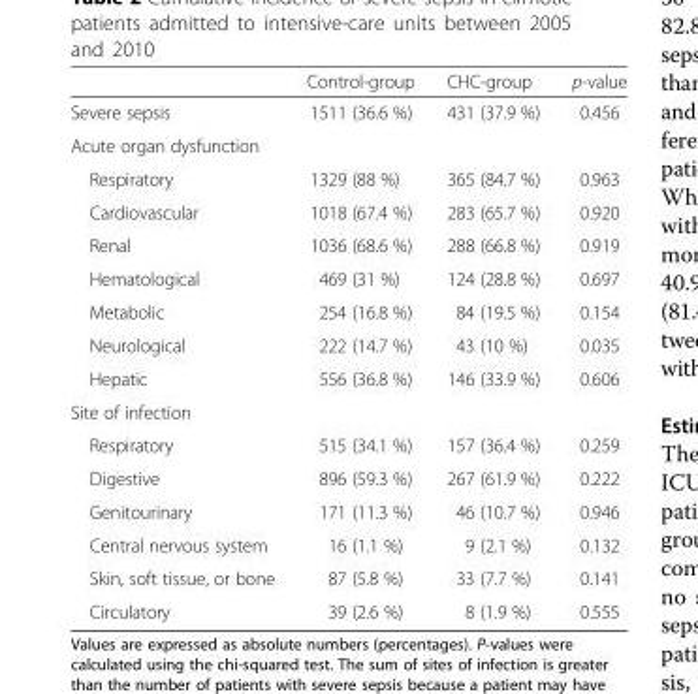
<table><thead><tr><td></td><td>Control-group</td><td>CHC-group</td><td>p-value</td></tr></thead><tbody><tr><td>Severe sepsis</td><td>1511 (36.6 %)</td><td>431 (37.9 %)</td><td>0.456</td></tr><tr><td colspan="4">Acute organ dysfunction</td></tr><tr><td>Respiratory</td><td>1329 (88 %)</td><td>365 (84.7 %)</td><td>0.963</td></tr><tr><td>Cardiovascular</td><td>1018 (67.4 %)</td><td>283 (65.7 %)</td><td>0.920</td></tr><tr><td>Renal</td><td>1036 (68.6 %)</td><td>288 (66.8 %)</td><td>0.919</td></tr><tr><td>Hematological</td><td>469 (31 %)</td><td>124 (28.8 %)</td><td>0.697</td></tr><tr><td>Metabolic</td><td>254 (16.8 %)</td><td>84 (19.5 %)</td><td>0.154</td></tr><tr><td>Neurological</td><td>222 (14.7 %)</td><td>43 (10 %)</td><td>0.035</td></tr><tr><td>Hepatic</td><td>556 (36.8 %)</td><td>146 (33.9 %)</td><td>0.606</td></tr><tr><td colspan="4">Site of infection</td></tr><tr><td>Respiratory</td><td>515 (34.1 %)</td><td>157 (36.4 %)</td><td>0.259</td></tr><tr><td>Digestive</td><td>896 (59.3 %)</td><td>267 (61.9 %)</td><td>0.222</td></tr><tr><td>Genitourinary</td><td>171 (11.3 %)</td><td>46 (10.7 %)</td><td>0.946</td></tr><tr><td>Central nervous system</td><td>16 (1.1 %)</td><td>9 (2.1 %)</td><td>0.132</td></tr><tr><td>Skin, soft tissue, or bone</td><td>87 (5.8 %)</td><td>33 (7.7 %)</td><td>0.141</td></tr><tr><td>Circulatory</td><td>39 (2.6 %)</td><td>8 (1.9 %)</td><td>0.555</td></tr></tbody></table>